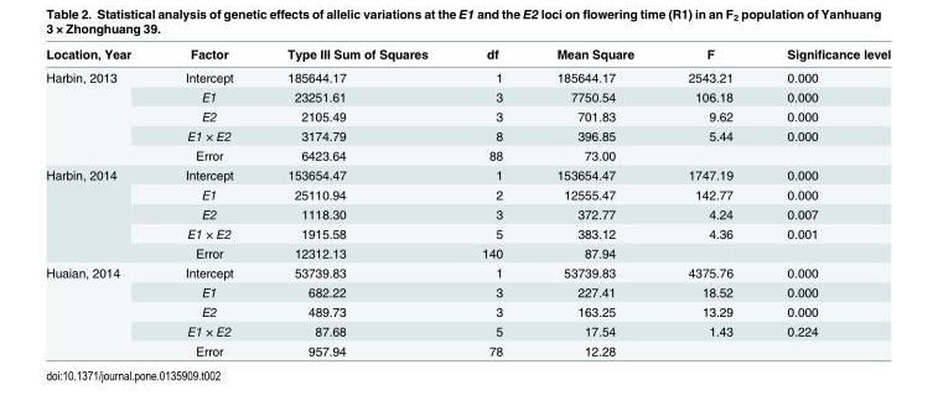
<table><thead><tr><td>Location, Year</td><td>Factor</td><td>Type III Sum of Squares</td><td>df</td><td>Mean Square</td><td>F</td><td>Significance level</td></tr></thead><tbody><tr><td rowspan="5">Harbin, 2013</td><td>Intercept</td><td>185644.17</td><td>1</td><td>185644.17</td><td>2543.21</td><td>0.000</td></tr><tr><td>E1</td><td>23251.61</td><td>3</td><td>7750.54</td><td>106.18</td><td>0.000</td></tr><tr><td>E2</td><td>2105.49</td><td>3</td><td>701.83</td><td>9.62</td><td>0.000</td></tr><tr><td>E1 × E2</td><td>3174.79</td><td>8</td><td>396.85</td><td>5.44</td><td>0.000</td></tr><tr><td>Error</td><td>6423.64</td><td>88</td><td>73.00</td><td></td><td></td></tr><tr><td rowspan="5">Harbin, 2014</td><td>Intercept</td><td>153654.47</td><td>1</td><td>153654.47</td><td>1747.19</td><td>0.000</td></tr><tr><td>E1</td><td>25110.94</td><td>2</td><td>12555.47</td><td>142.77</td><td>0.000</td></tr><tr><td>E2</td><td>1118.30</td><td>3</td><td>372.77</td><td>4.24</td><td>0.007</td></tr><tr><td>E1 × E2</td><td>1915.58</td><td>5</td><td>383.12</td><td>4.36</td><td>0.001</td></tr><tr><td>Error</td><td>12312.13</td><td>140</td><td>87.94</td><td></td><td></td></tr><tr><td rowspan="5">Huaian, 2014</td><td>Intercept</td><td>53739.83</td><td>1</td><td>53739.83</td><td>4375.76</td><td>0.000</td></tr><tr><td>E1</td><td>682.22</td><td>3</td><td>227.41</td><td>18.52</td><td>0.000</td></tr><tr><td>E2</td><td>489.73</td><td>3</td><td>163.25</td><td>13.29</td><td>0.000</td></tr><tr><td>E1 × E2</td><td>87.68</td><td>5</td><td>17.54</td><td>1.43</td><td>0.224</td></tr><tr><td>Error</td><td>957.94</td><td>78</td><td>12.28</td><td></td><td></td></tr></tbody></table>